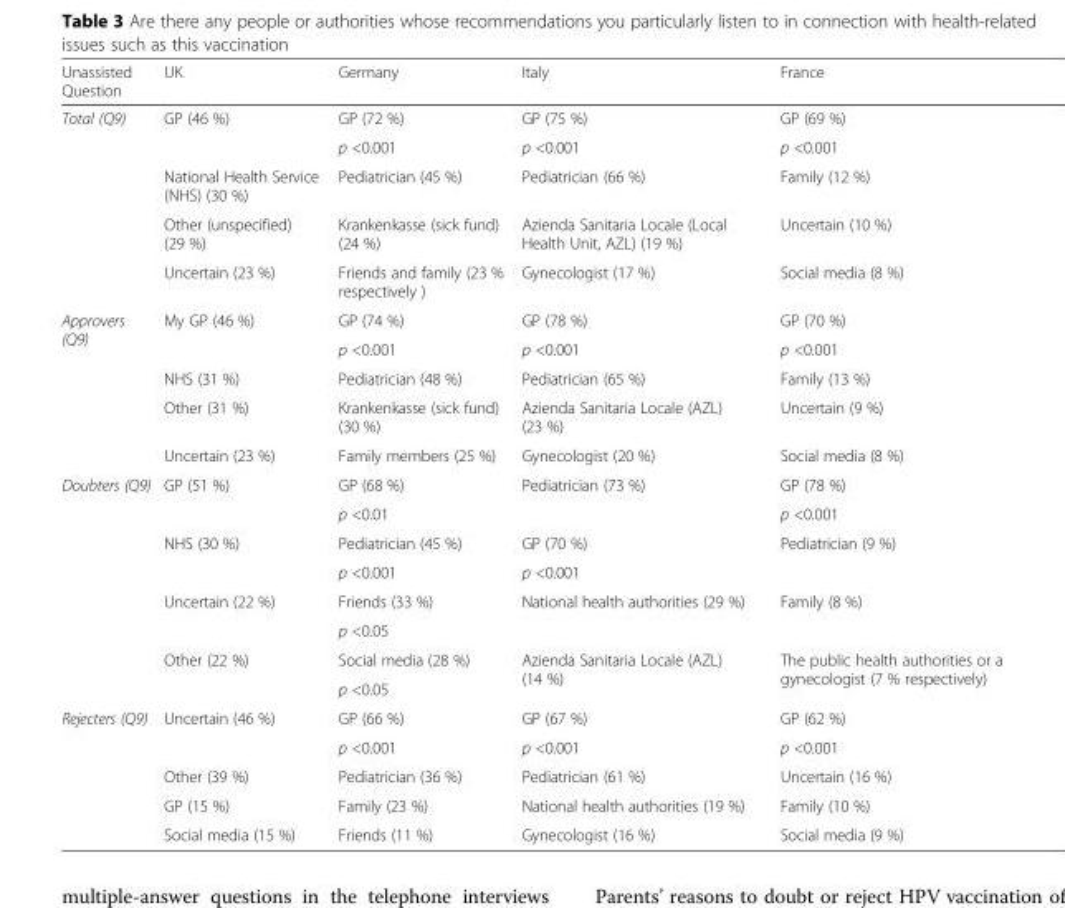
<table><thead><tr><td>Unassisted Question</td><td>UK</td><td>Germany</td><td>Italy</td><td>France</td></tr></thead><tbody><tr><td rowspan="5">Total (Q9)</td><td rowspan="2">GP (46 %)</td><td>GP (72 %)</td><td>GP (75 %)</td><td>GP (69 %)</td></tr><tr><td>p &lt;0.001</td><td>p &lt;0.001</td><td>p &lt;0.001</td></tr><tr><td>National Health Service (NHS) (30 %)</td><td>Pediatrician (45 %)</td><td>Pediatrician (66 %)</td><td>Family (12 %)</td></tr><tr><td>Other (unspecified) (29 %)</td><td>Krankenkasse (sick fund) (24 %)</td><td>Azienda Sanitaria Locale (Local Health Unit, AZL) (19 %)</td><td>Uncertain (10 %)</td></tr><tr><td>Uncertain (23 %)</td><td>Friends and family (23 % respectively )</td><td>Gynecologist (17 %)</td><td>Social media (8 %)</td></tr><tr><td rowspan="5">Approvers (Q9)</td><td rowspan="2">My GP (46 %)</td><td>GP (74 %)</td><td>GP (78 %)</td><td>GP (70 %)</td></tr><tr><td>p &lt;0.001</td><td>p &lt;0.001</td><td>p &lt;0.001</td></tr><tr><td>NHS (31 %)</td><td>Pediatrician (48 %)</td><td>Pediatrician (65 %)</td><td>Family (13 %)</td></tr><tr><td>Other (31 %)</td><td>Krankenkasse (sick fund) (30 %)</td><td>Azienda Sanitaria Locale (AZL) (23 %)</td><td>Uncertain (9 %)</td></tr><tr><td>Uncertain (23 %)</td><td>Family members (25 %)</td><td>Gynecologist (20 %)</td><td>Social media (8 %)</td></tr><tr><td rowspan="8">Doubters (Q9)</td><td rowspan="2">GP (51 %)</td><td>GP (68 %)</td><td>Pediatrician (73 %)</td><td>GP (78 %)</td></tr><tr><td>p &lt;0.01</td><td></td><td>p &lt;0.001</td></tr><tr><td rowspan="2">NHS (30 %)</td><td>Pediatrician (45 %)</td><td>GP (70 %)</td><td>Pediatrician (9 %)</td></tr><tr><td>p &lt;0.001</td><td>p &lt;0.001</td><td></td></tr><tr><td rowspan="2">Uncertain (22 %)</td><td>Friends (33 %)</td><td rowspan="2">National health authorities (29 %)</td><td rowspan="2">Family (8 %)</td></tr><tr><td>p &lt;0.05</td></tr><tr><td rowspan="2">Other (22 %)</td><td>Social media (28 %)</td><td rowspan="2">Azienda Sanitaria Locale (AZL) (14 %)</td><td rowspan="2">The public health authorities or a gynecologist (7 % respectively)</td></tr><tr><td>p &lt;0.05</td></tr><tr><td rowspan="5">Rejecters (Q9)</td><td rowspan="2">Uncertain (46 %)</td><td>GP (66 %)</td><td>GP (67 %)</td><td>GP (62 %)</td></tr><tr><td>p &lt;0.001</td><td>p &lt;0.001</td><td>p &lt;0.001</td></tr><tr><td>Other (39 %)</td><td>Pediatrician (36 %)</td><td>Pediatrician (61 %)</td><td>Uncertain (16 %)</td></tr><tr><td>GP (15 %)</td><td>Family (23 %)</td><td>National health authorities (19 %)</td><td>Family (10 %)</td></tr><tr><td>Social media (15 %)</td><td>Friends (11 %)</td><td>Gynecologist (16 %)</td><td>Social media (9 %)</td></tr></tbody></table>